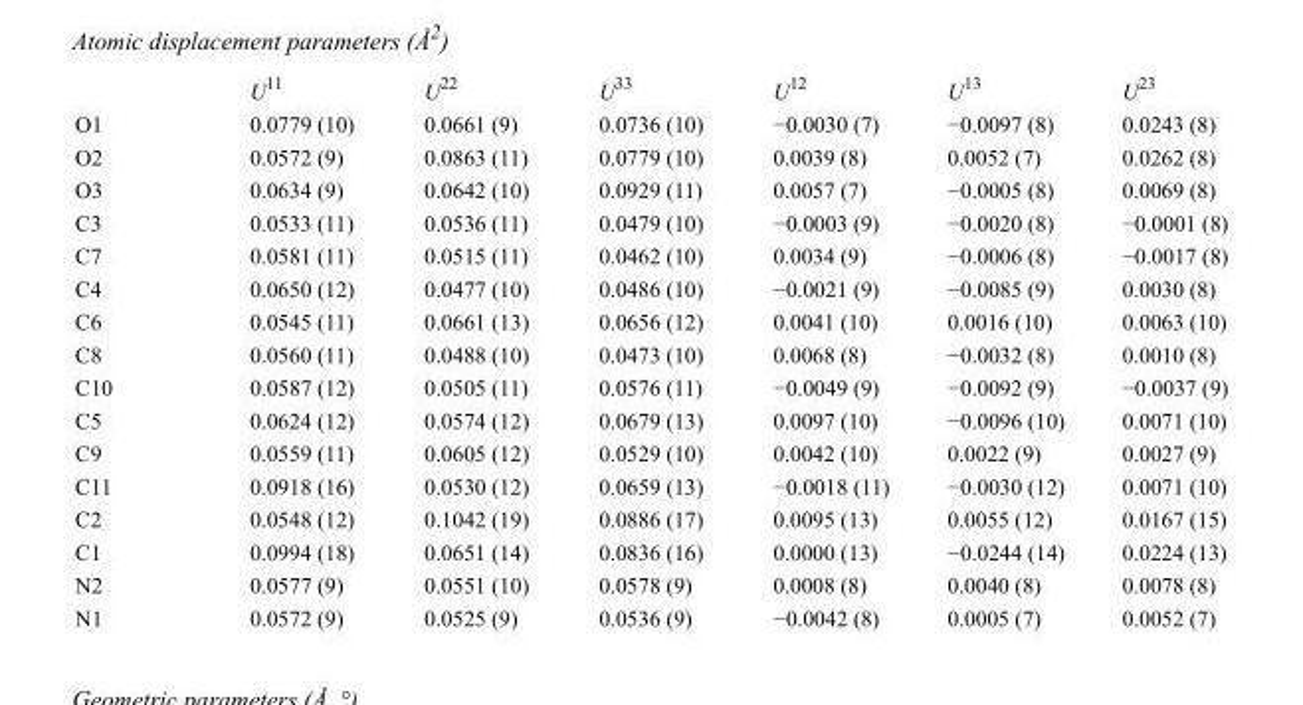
<table><thead><tr><td></td><td>U<sup>11</sup></td><td>U<sup>22</sup></td><td>U<sup>33</sup></td><td>U<sup>12</sup></td><td>U<sup>13</sup></td><td>U<sup>23</sup></td></tr></thead><tbody><tr><td>O1</td><td>0.0779 (10)</td><td>0.0661 (9)</td><td>0.0736 (10)</td><td>−0.0030 (7)</td><td>−0.0097 (8)</td><td>0.0243 (8)</td></tr><tr><td>O2</td><td>0.0572 (9)</td><td>0.0863 (11)</td><td>0.0779 (10)</td><td>0.0039 (8)</td><td>0.0052 (7)</td><td>0.0262 (8)</td></tr><tr><td>O3</td><td>0.0634 (9)</td><td>0.0642 (10)</td><td>0.0929 (11)</td><td>0.0057 (7)</td><td>−0.0005 (8)</td><td>0.0069 (8)</td></tr><tr><td>C3</td><td>0.0533 (11)</td><td>0.0536 (11)</td><td>0.0479 (10)</td><td>−0.0003 (9)</td><td>−0.0020 (8)</td><td>−0.0001 (8)</td></tr><tr><td>C7</td><td>0.0581 (11)</td><td>0.0515 (11)</td><td>0.0462 (10)</td><td>0.0034 (9)</td><td>−0.0006 (8)</td><td>−0.0017 (8)</td></tr><tr><td>C4</td><td>0.0650 (12)</td><td>0.0477 (10)</td><td>0.0486 (10)</td><td>−0.0021 (9)</td><td>−0.0085 (9)</td><td>0.0030 (8)</td></tr><tr><td>C6</td><td>0.0545 (11)</td><td>0.0661 (13)</td><td>0.0656 (12)</td><td>0.0041 (10)</td><td>0.0016 (10)</td><td>0.0063 (10)</td></tr><tr><td>C8</td><td>0.0560 (11)</td><td>0.0488 (10)</td><td>0.0473 (10)</td><td>0.0068 (8)</td><td>−0.0032 (8)</td><td>0.0010 (8)</td></tr><tr><td>C10</td><td>0.0587 (12)</td><td>0.0505 (11)</td><td>0.0576 (11)</td><td>−0.0049 (9)</td><td>−0.0092 (9)</td><td>−0.0037 (9)</td></tr><tr><td>C5</td><td>0.0624 (12)</td><td>0.0574 (12)</td><td>0.0679 (13)</td><td>0.0097 (10)</td><td>−0.0096 (10)</td><td>0.0071 (10)</td></tr><tr><td>C9</td><td>0.0559 (11)</td><td>0.0605 (12)</td><td>0.0529 (10)</td><td>0.0042 (10)</td><td>0.0022 (9)</td><td>0.0027 (9)</td></tr><tr><td>C11</td><td>0.0918 (16)</td><td>0.0530 (12)</td><td>0.0659 (13)</td><td>−0.0018 (11)</td><td>−0.0030 (12)</td><td>0.0071 (10)</td></tr><tr><td>C2</td><td>0.0548 (12)</td><td>0.1042 (19)</td><td>0.0886 (17)</td><td>0.0095 (13)</td><td>0.0055 (12)</td><td>0.0167 (15)</td></tr><tr><td>C1</td><td>0.0994 (18)</td><td>0.0651 (14)</td><td>0.0836 (16)</td><td>0.0000 (13)</td><td>−0.0244 (14)</td><td>0.0224 (13)</td></tr><tr><td>N2</td><td>0.0577 (9)</td><td>0.0551 (10)</td><td>0.0578 (9)</td><td>0.0008 (8)</td><td>0.0040 (8)</td><td>0.0078 (8)</td></tr><tr><td>N1</td><td>0.0572 (9)</td><td>0.0525 (9)</td><td>0.0536 (9)</td><td>−0.0042 (8)</td><td>0.0005 (7)</td><td>0.0052 (7)</td></tr></tbody></table>